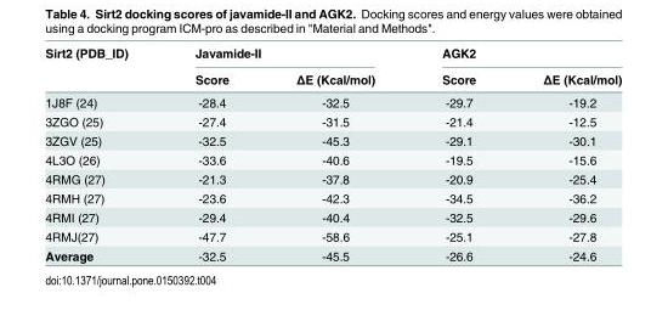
<table><thead><tr><td rowspan="2">Sirt2 (PDB_ID)</td><td colspan="2">Javamide-II</td><td colspan="2">AGK2</td></tr><tr><td>Score</td><td>ΔE (Kcal/mol)</td><td>Score</td><td>ΔE (Kcal/mol)</td></tr></thead><tbody><tr><td>1J8F (24)</td><td>-28.4</td><td>-32.5</td><td>-29.7</td><td>-19.2</td></tr><tr><td>3ZGO (25)</td><td>-27.4</td><td>-31.5</td><td>-21.4</td><td>-12.5</td></tr><tr><td>3ZGV (25)</td><td>-32.5</td><td>-45.3</td><td>-29.1</td><td>-30.1</td></tr><tr><td>4L3O (26)</td><td>-33.6</td><td>-40.6</td><td>-19.5</td><td>-15.6</td></tr><tr><td>4RMG (27)</td><td>-21.3</td><td>-37.8</td><td>-20.9</td><td>-25.4</td></tr><tr><td>4RMH (27)</td><td>-23.6</td><td>-42.3</td><td>-34.5</td><td>-36.2</td></tr><tr><td>4RMI (27)</td><td>-29.4</td><td>-40.4</td><td>-32.5</td><td>-29.6</td></tr><tr><td>4RMJ(27)</td><td>-47.7</td><td>-58.6</td><td>-25.1</td><td>-27.8</td></tr><tr><td>Average</td><td>-32.5</td><td>-45.5</td><td>-26.6</td><td>-24.6</td></tr></tbody></table>